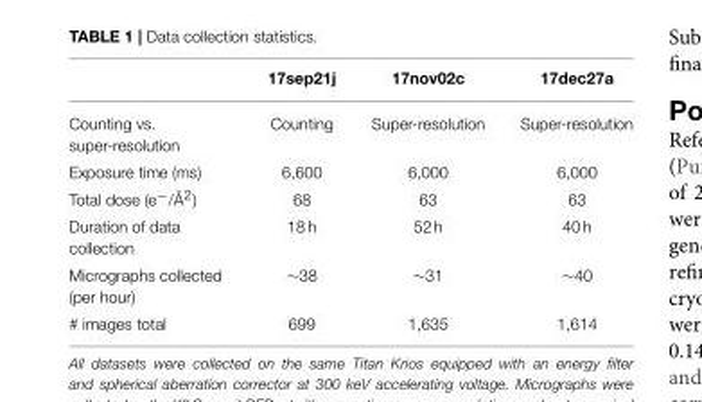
<table><thead><tr><td></td><td>17sep21j</td><td>17nov02c</td><td>17dec27a</td></tr></thead><tbody><tr><td>Counting vs. super-resolution</td><td>Counting</td><td>Super-resolution</td><td>Super-resolution</td></tr><tr><td>Exposure time (ms)</td><td>6,600</td><td>6,000</td><td>6,000</td></tr><tr><td>Total dose (e<sup>−</sup>/Å<sup>2</sup>)</td><td>68</td><td>63</td><td>63</td></tr><tr><td>Duration of data collection</td><td>18 h</td><td>52 h</td><td>40 h</td></tr><tr><td>Micrographs collected (per hour)</td><td>∼38</td><td>∼31</td><td>∼40</td></tr><tr><td># images total</td><td>699</td><td>1,635</td><td>1,614</td></tr></tbody></table>